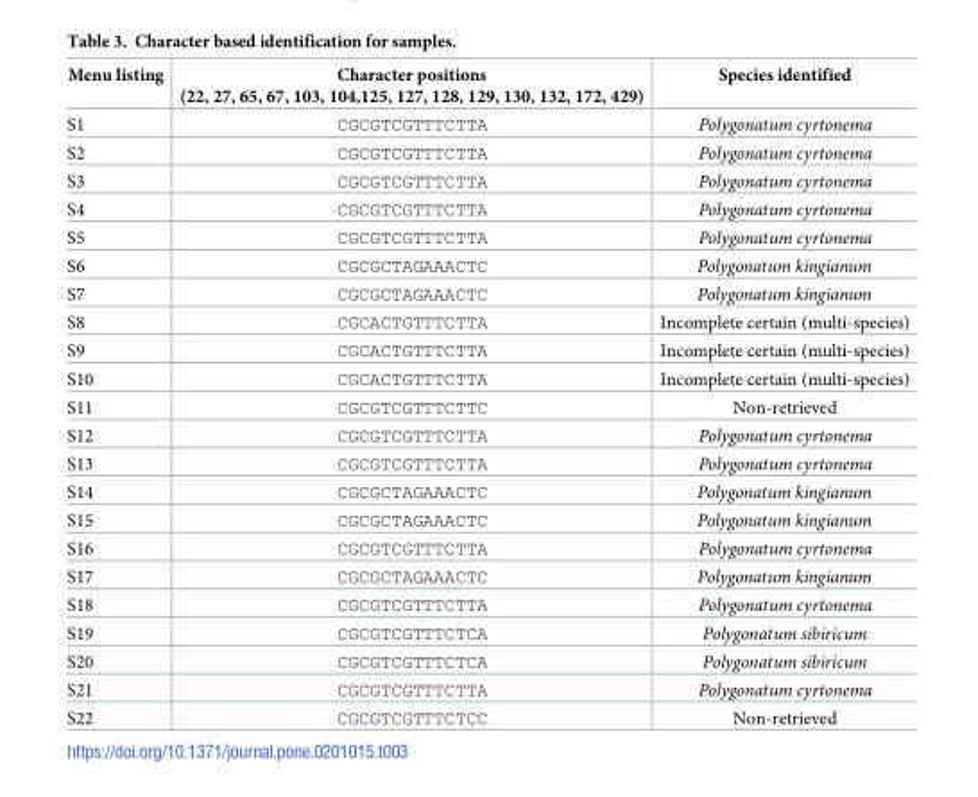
<table><thead><tr><td>Menu listing</td><td>Character positions (22, 27, 65, 67, 103, 104,125, 127, 128, 129, 130, 132, 172, 429)</td><td>Species identified</td></tr></thead><tbody><tr><td>S1</td><td>CGCGTCGTTTCTTA</td><td>Polygonatum cyrtonema</td></tr><tr><td>S2</td><td>CGCGTCGTTTCTTA</td><td>Polygonatum cyrtonema</td></tr><tr><td>S3</td><td>CGCGTCGTTTCTTA</td><td>Polygonatum cyrtonema</td></tr><tr><td>S4</td><td>CGCGTCGTTTCTTA</td><td>Polygonatum cyrtonema</td></tr><tr><td>S5</td><td>CGCGTCGTTTCTTA</td><td>Polygonatum cyrtonema</td></tr><tr><td>S6</td><td>CGCGCTAGAAACTC</td><td>Polygonatum kingianum</td></tr><tr><td>S7</td><td>CGCGCTAGAAACTC</td><td>Polygonatum kingianum</td></tr><tr><td>S8</td><td>CGCACTGTTTCTTA</td><td>Incomplete certain (multi-species)</td></tr><tr><td>S9</td><td>CGCACTGTTTCTTA</td><td>Incomplete certain (multi-species)</td></tr><tr><td>S10</td><td>CGCACTGTTTCTTA</td><td>Incomplete certain (multi-species)</td></tr><tr><td>S11</td><td>CGCGTCGTTTCTTC</td><td>Non-retrieved</td></tr><tr><td>S12</td><td>CGCGTCGTTTCTTA</td><td>Polygonatum cyrtonema</td></tr><tr><td>S13</td><td>CGCGTCGTTTCTTA</td><td>Polygonatum cyrtonema</td></tr><tr><td>S14</td><td>CGCGCTAGAAACTC</td><td>Polygonatum kingianum</td></tr><tr><td>S15</td><td>CGCGCTAGAAACTC</td><td>Polygonatum kingianum</td></tr><tr><td>S16</td><td>CGCGTCGTTTCTTA</td><td>Polygonatum cyrtonema</td></tr><tr><td>S17</td><td>CGCGCTAGAAACTC</td><td>Polygonatum kingianum</td></tr><tr><td>S18</td><td>CGCGTCGTTTCTTA</td><td>Polygonatum cyrtonema</td></tr><tr><td>S19</td><td>CGCGTCGTTTCTCA</td><td>Polygonatum sibiricum</td></tr><tr><td>S20</td><td>CGCGTCGTTTCTCA</td><td>Polygonatum sibiricum</td></tr><tr><td>S21</td><td>CGCGTCGTTTCTTA</td><td>Polygonatum cyrtonema</td></tr><tr><td>S22</td><td>CGCGTCGTTTCTCC</td><td>Non-retrieved</td></tr></tbody></table>